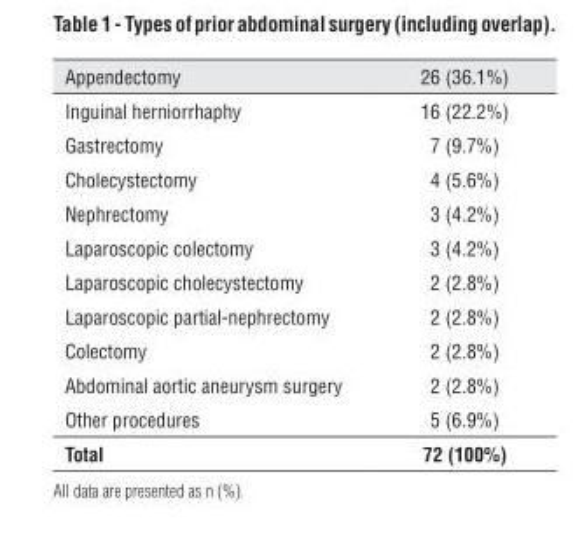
<table><thead><tr><td>Appendectomy</td><td>26 (36.1%)</td></tr></thead><tbody><tr><td>Inguinal herniorrhaphy</td><td>16 (22.2%)</td></tr><tr><td>Gastrectomy</td><td>7 (9.7%)</td></tr><tr><td>Cholecystectomy</td><td>4 (5.6%)</td></tr><tr><td>Nephrectomy</td><td>3 (4.2%)</td></tr><tr><td>Laparoscopic colectomy</td><td>3 (4.2%)</td></tr><tr><td>Laparoscopic cholecystectomy</td><td>2 (2.8%)</td></tr><tr><td>Laparoscopic partial-nephrectomy</td><td>2 (2.8%)</td></tr><tr><td>Colectomy</td><td>2 (2.8%)</td></tr><tr><td>Abdominal aortic aneurysm surgery</td><td>2 (2.8%)</td></tr><tr><td>Other procedures</td><td>5 (6.9%)</td></tr><tr><td>Total</td><td>72 (100%)</td></tr></tbody></table>